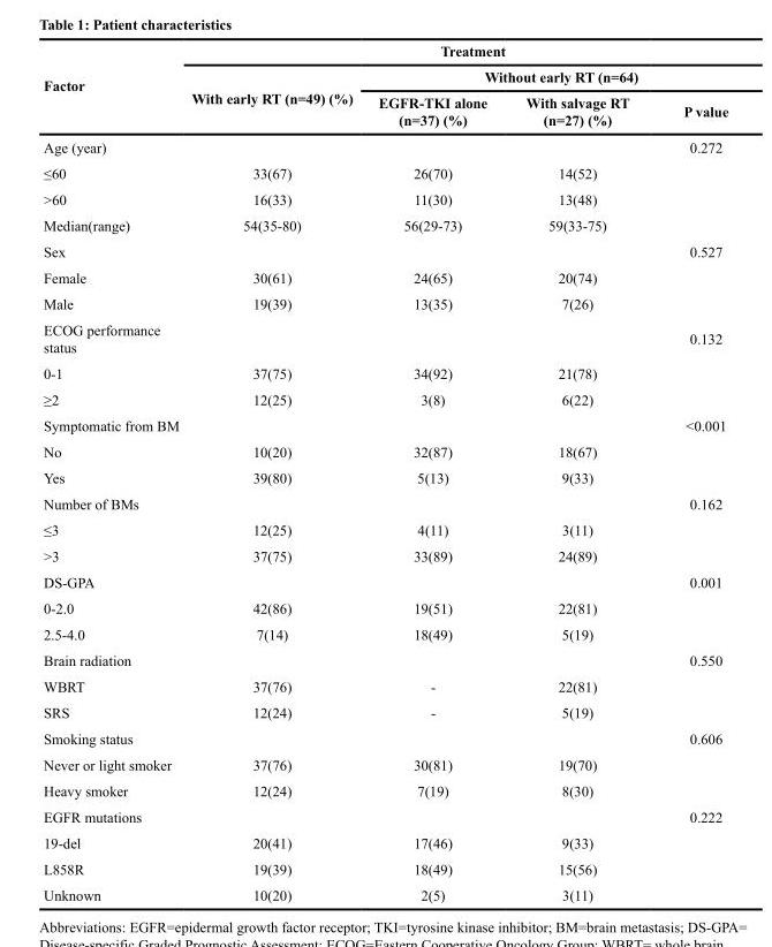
<table><thead><tr><td rowspan="3">Factor</td><td colspan="4">Treatment</td></tr><tr><td rowspan="2">With early RT (n=49) (%)</td><td colspan="3">Without early RT (n=64)</td></tr><tr><td>EGFR-TKI alone (n=37) (%)</td><td>With salvage RT (n=27) (%)</td><td>P value</td></tr></thead><tbody><tr><td>Age (year)</td><td></td><td></td><td></td><td>0.272</td></tr><tr><td>≤60</td><td>33(67)</td><td>26(70)</td><td>14(52)</td><td></td></tr><tr><td>&gt;60</td><td>16(33)</td><td>11(30)</td><td>13(48)</td><td></td></tr><tr><td>Median(range)</td><td>54(35-80)</td><td>56(29-73)</td><td>59(33-75)</td><td></td></tr><tr><td>Sex</td><td></td><td></td><td></td><td>0.527</td></tr><tr><td>Female</td><td>30(61)</td><td>24(65)</td><td>20(74)</td><td></td></tr><tr><td>Male</td><td>19(39)</td><td>13(35)</td><td>7(26)</td><td></td></tr><tr><td>ECOG performance status</td><td></td><td></td><td></td><td>0.132</td></tr><tr><td>0-1</td><td>37(75)</td><td>34(92)</td><td>21(78)</td><td></td></tr><tr><td>≥2</td><td>12(25)</td><td>3(8)</td><td>6(22)</td><td></td></tr><tr><td>Symptomatic from BM</td><td></td><td></td><td></td><td>&lt;0.001</td></tr><tr><td>No</td><td>10(20)</td><td>32(87)</td><td>18(67)</td><td></td></tr><tr><td>Yes</td><td>39(80)</td><td>5(13)</td><td>9(33)</td><td></td></tr><tr><td>Number of BMs</td><td></td><td></td><td></td><td>0.162</td></tr><tr><td>≤3</td><td>12(25)</td><td>4(11)</td><td>3(11)</td><td></td></tr><tr><td>&gt;3</td><td>37(75)</td><td>33(89)</td><td>24(89)</td><td></td></tr><tr><td>DS-GPA</td><td></td><td></td><td></td><td>0.001</td></tr><tr><td>0-2.0</td><td>42(86)</td><td>19(51)</td><td>22(81)</td><td></td></tr><tr><td>2.5-4.0</td><td>7(14)</td><td>18(49)</td><td>5(19)</td><td></td></tr><tr><td>Brain radiation</td><td></td><td></td><td></td><td>0.550</td></tr><tr><td>WBRT</td><td>37(76)</td><td>-</td><td>22(81)</td><td></td></tr><tr><td>SRS</td><td>12(24)</td><td>-</td><td>5(19)</td><td></td></tr><tr><td>Smoking status</td><td></td><td></td><td></td><td>0.606</td></tr><tr><td>Never or light smoker</td><td>37(76)</td><td>30(81)</td><td>19(70)</td><td></td></tr><tr><td>Heavy smoker</td><td>12(24)</td><td>7(19)</td><td>8(30)</td><td></td></tr><tr><td>EGFR mutations</td><td></td><td></td><td></td><td>0.222</td></tr><tr><td>19-del</td><td>20(41)</td><td>17(46)</td><td>9(33)</td><td></td></tr><tr><td>L858R</td><td>19(39)</td><td>18(49)</td><td>15(56)</td><td></td></tr><tr><td>Unknown</td><td>10(20)</td><td>2(5)</td><td>3(11)</td><td></td></tr></tbody></table>